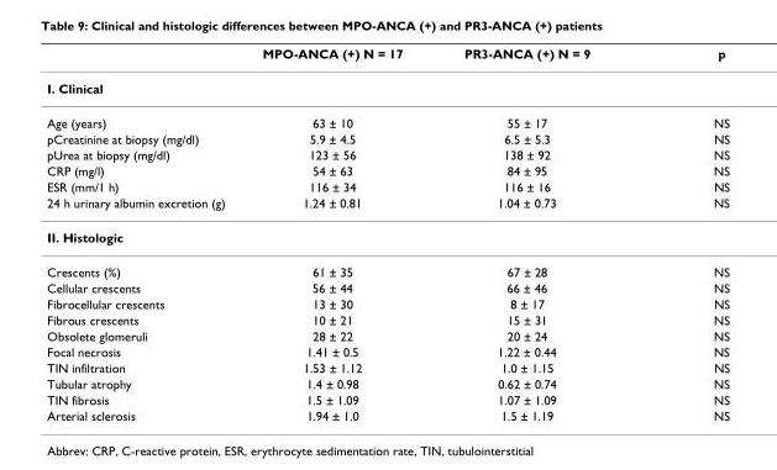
<table><thead><tr><td></td><td>MPO-ANCA (+) N = 17</td><td>PR3-ANCA (+) N = 9</td><td>p</td></tr></thead><tbody><tr><td colspan="4">I. Clinical</td></tr><tr><td>Age (years)</td><td>63 ± 10</td><td>55 ± 17</td><td>NS</td></tr><tr><td>pCreatinine at biopsy (mg/dl)</td><td>5.9 ± 4.5</td><td>6.5 ± 5.3</td><td>NS</td></tr><tr><td>pUrea at biopsy (mg/dl)</td><td>123 ± 56</td><td>138 ± 92</td><td>NS</td></tr><tr><td>CRP (mg/l)</td><td>54 ± 63</td><td>84 ± 95</td><td>NS</td></tr><tr><td>ESR (mm/1 h)</td><td>116 ± 34</td><td>116 ± 16</td><td>NS</td></tr><tr><td>24 h urinary albumin excretion (g)</td><td>1.24 ± 0.81</td><td>1.04 ± 0.73</td><td>NS</td></tr><tr><td colspan="4">II. Histologic</td></tr><tr><td>Crescents (%)</td><td>61 ± 35</td><td>67 ± 28</td><td>NS</td></tr><tr><td>Cellular crescents</td><td>56 ± 44</td><td>66 ± 46</td><td>NS</td></tr><tr><td>Fibrocellular crescents</td><td>13 ± 30</td><td>8 ± 17</td><td>NS</td></tr><tr><td>Fibrous crescents</td><td>10 ± 21</td><td>15 ± 31</td><td>NS</td></tr><tr><td>Obsolete glomeruli</td><td>28 ± 22</td><td>20 ± 24</td><td>NS</td></tr><tr><td>Focal necrosis</td><td>1.41 ± 0.5</td><td>1.22 ± 0.44</td><td>NS</td></tr><tr><td>TIN infiltration</td><td>1.53 ± 1.12</td><td>1.0 ± 1.15</td><td>NS</td></tr><tr><td>Tubular atrophy</td><td>1.4 ± 0.98</td><td>0.62 ± 0.74</td><td>NS</td></tr><tr><td>TIN fibrosis</td><td>1.5 ± 1.09</td><td>1.07 ± 1.09</td><td>NS</td></tr><tr><td>Arterial sclerosis</td><td>1.94 ± 1.0</td><td>1.5 ± 1.19</td><td>NS</td></tr></tbody></table>